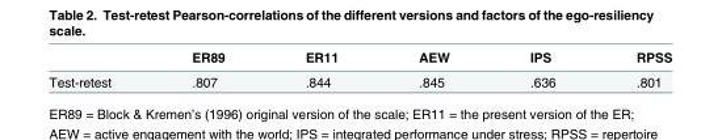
<table><thead><tr><td></td><td>ER89</td><td>ER11</td><td>AEW</td><td>IPS</td><td>RPSS</td></tr></thead><tbody><tr><td>Test-retest</td><td>.807</td><td>.844</td><td>.845</td><td>.636</td><td>.801</td></tr></tbody></table>